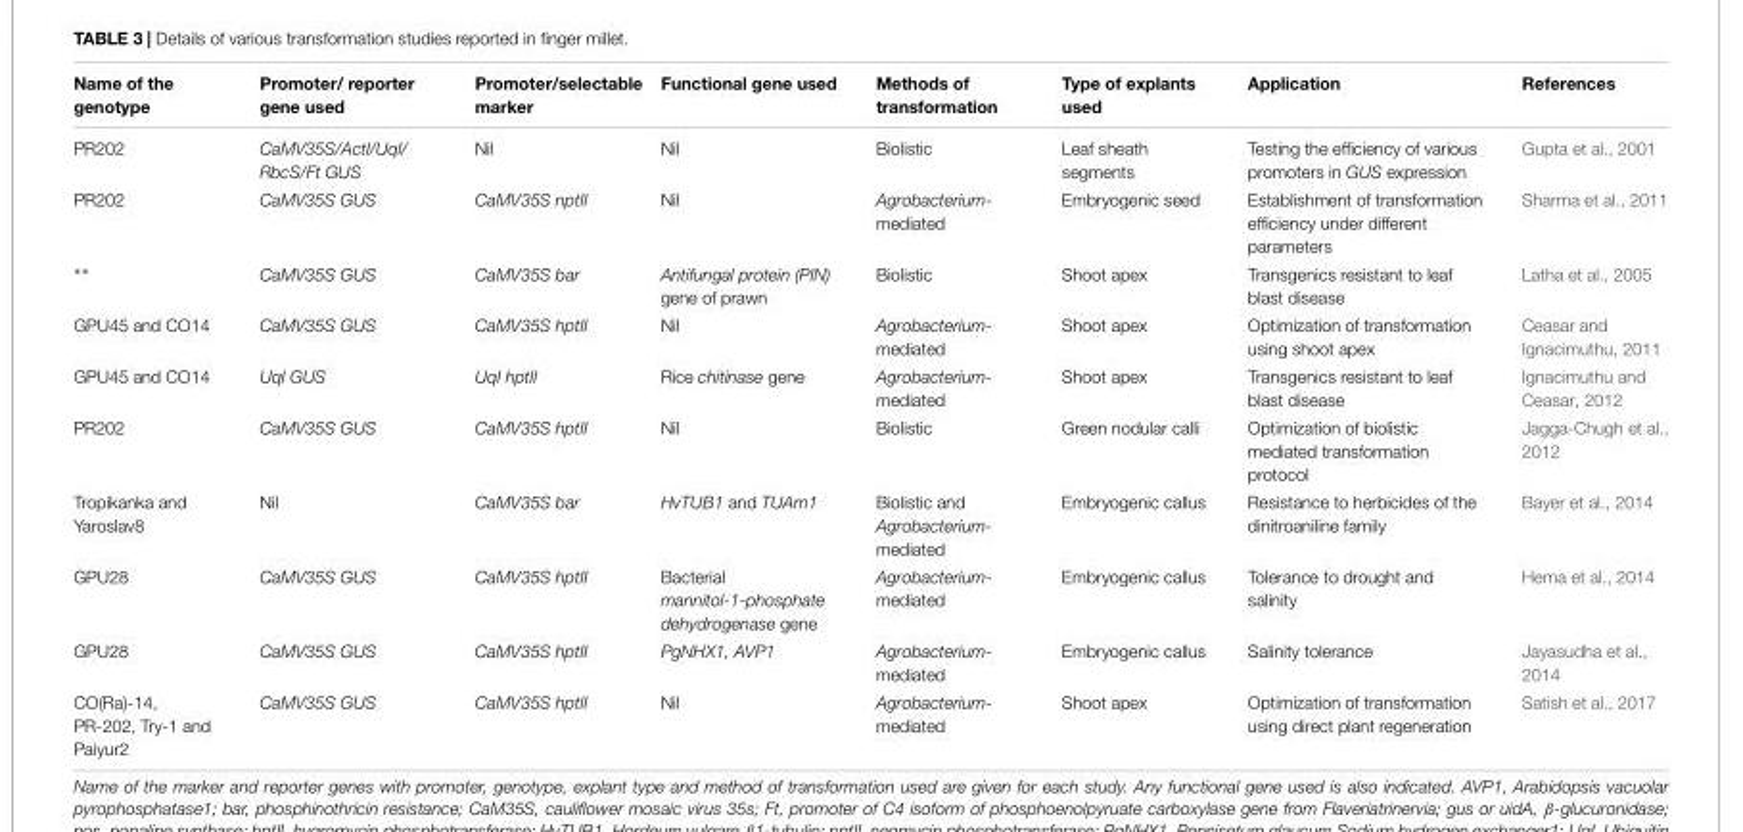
<table><thead><tr><td>Name of the genotype</td><td>Promoter/ reporter gene used</td><td>Promoter/selectable marker</td><td>Functional gene used</td><td>Methods of transformation</td><td>Type of explants used</td><td>Application</td><td>References</td></tr></thead><tbody><tr><td>PR202</td><td>CaMV35S/ActI/UqI/ RbcS/Ft GUS</td><td>Nil</td><td>Nil</td><td>Biolistic</td><td>Leaf sheath segments</td><td>Testing the efficiency of various promoters in GUS expression</td><td>Gupta et al., 2001</td></tr><tr><td>PR202</td><td>CaMV35S GUS</td><td>CaMV35S nptII</td><td>Nil</td><td>Agrobacterium- mediated</td><td>Embryogenic seed</td><td>Establishment of transformation efficiency under different parameters</td><td>Sharma et al., 2011</td></tr><tr><td>∗∗</td><td>CaMV35S GUS</td><td>CaMV35S bar</td><td>Antifungal protein (PIN) gene of prawn</td><td>Biolistic</td><td>Shoot apex</td><td>Transgenics resistant to leaf blast disease</td><td>Latha et al., 2005</td></tr><tr><td>GPU45 and CO14</td><td>CaMV35S GUS</td><td>CaMV35S hptII</td><td>Nil</td><td>Agrobacterium- mediated</td><td>Shoot apex</td><td>Optimization of transformation using shoot apex</td><td>Ceasar and Ignacimuthu, 2011</td></tr><tr><td>GPU45 and CO14</td><td>UqI GUS</td><td>UqI hptII</td><td>Rice chitinase gene</td><td>Agrobacterium- mediated</td><td>Shoot apex</td><td>Transgenics resistant to leaf blast disease</td><td>Ignacimuthu and Ceasar, 2012</td></tr><tr><td>PR202</td><td>CaMV35S GUS</td><td>CaMV35S hptII</td><td>Nil</td><td>Biolistic</td><td>Green nodular calli</td><td>Optimization of biolistic mediated transformation protocol</td><td>Jagga-Chugh et al., 2012</td></tr><tr><td>Tropikanka and Yaroslav8</td><td>Nil</td><td>CaMV35S bar</td><td>HvTUB1 and TUAm1</td><td>Biolistic and Agrobacterium- mediated</td><td>Embryogenic callus</td><td>Resistance to herbicides of the dinitroaniline family</td><td>Bayer et al., 2014</td></tr><tr><td>GPU28</td><td>CaMV35S GUS</td><td>CaMV35S hptII</td><td>Bacterial mannitol-1-phosphate dehydrogenase gene</td><td>Agrobacterium- mediated</td><td>Embryogenic callus</td><td>Tolerance to drought and salinity</td><td>Hema et al., 2014</td></tr><tr><td>GPU28</td><td>CaMV35S GUS</td><td>CaMV35S hptII</td><td>PgNHX1, AVP1</td><td>Agrobacterium- mediated</td><td>Embryogenic callus</td><td>Salinity tolerance</td><td>Jayasudha et al., 2014</td></tr><tr><td>CO(Ra)-14, PR-202, Try-1 and Paiyur2</td><td>CaMV35S GUS</td><td>CaMV35S hptII</td><td>Nil</td><td>Agrobacterium- mediated</td><td>Shoot apex</td><td>Optimization of transformation using direct plant regeneration</td><td>Satish et al., 2017</td></tr></tbody></table>